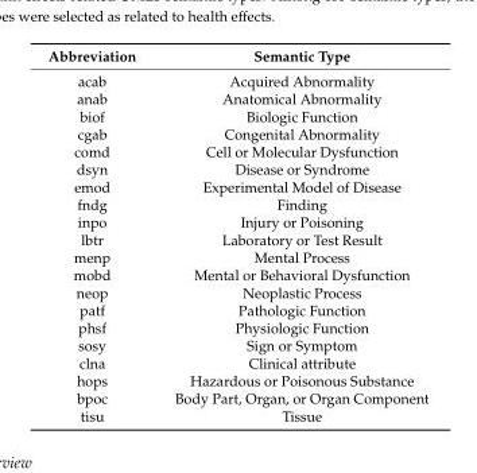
<table><thead><tr><td>Abbreviation</td><td>Semantic Type</td></tr></thead><tbody><tr><td>acab</td><td>Acquired Abnormality</td></tr><tr><td>anab</td><td>Anatomical Abnormality</td></tr><tr><td>biof</td><td>Biologic Function</td></tr><tr><td>cgab</td><td>Congenital Abnormality</td></tr><tr><td>comd</td><td>Cell or Molecular Dysfunction</td></tr><tr><td>dsyn</td><td>Disease or Syndrome</td></tr><tr><td>emod</td><td>Experimental Model of Disease</td></tr><tr><td>fndg</td><td>Finding</td></tr><tr><td>inpo</td><td>Injury or Poisoning</td></tr><tr><td>lbtr</td><td>Laboratory or Test Result</td></tr><tr><td>menp</td><td>Mental Process</td></tr><tr><td>mobd</td><td>Mental or Behavioral Dysfunction</td></tr><tr><td>neop</td><td>Neoplastic Process</td></tr><tr><td>patf</td><td>Pathologic Function</td></tr><tr><td>phsf</td><td>Physiologic Function</td></tr><tr><td>sosy</td><td>Sign or Symptom</td></tr><tr><td>clna</td><td>Clinical attribute</td></tr><tr><td>hops</td><td>Hazardous or Poisonous Substance</td></tr><tr><td>bpoc</td><td>Body Part, Organ, or Organ Component</td></tr><tr><td>tisu</td><td>Tissue</td></tr></tbody></table>